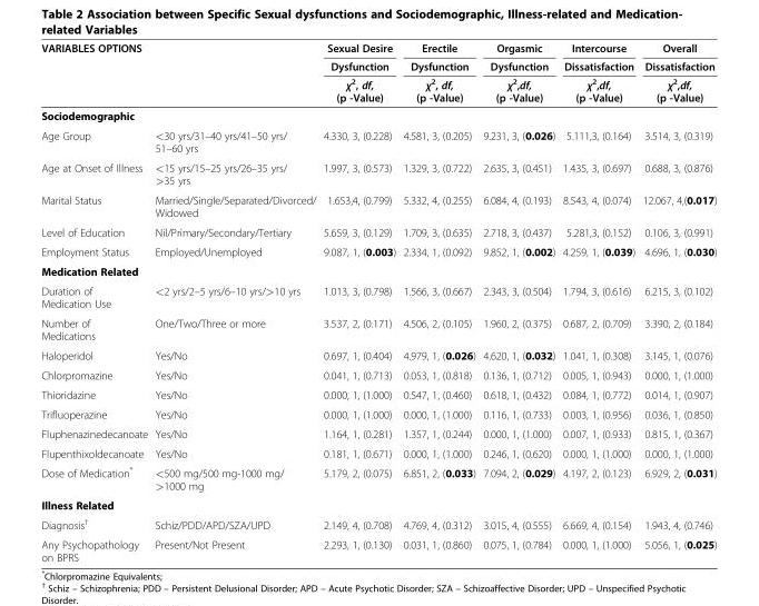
<table><thead><tr><td rowspan="3">VARIABLES OPTIONS</td><td rowspan="3"></td><td rowspan="3">Sexual Desire Dysfunction χ<sup>2</sup>, df, (p -Value)</td><td rowspan="3">Erectile Dysfunction χ<sup>2</sup>, df, (p -Value)</td><td rowspan="3">Orgasmic Dysfunction χ<sup>2</sup>,df, (p -Value)</td><td rowspan="3">Intercourse Dissatisfaction χ<sup>2</sup>,df, (p -Value)</td><td rowspan="3">Overall Dissatisfaction χ<sup>2</sup>,df, (p -Value)</td></tr><tr></tr><tr></tr></thead><tbody><tr><td colspan="7">Sociodemographic</td></tr><tr><td>Age Group</td><td>&lt;30 yrs/31–40 yrs/41–50 yrs/ 51–60 yrs</td><td>4.330, 3, (0.228)</td><td>4.581, 3, (0.205)</td><td>9.231, 3, (0.026)</td><td>5.111,3, (0.164)</td><td>3.514, 3, (0.319)</td></tr><tr><td>Age at Onset of Illness</td><td>&lt;15 yrs/15–25 yrs/26–35 yrs/ &gt;35 yrs</td><td>1.997, 3, (0.573)</td><td>1.329, 3, (0.722)</td><td>2.635, 3, (0.451)</td><td>1.435, 3, (0.697)</td><td>0.688, 3, (0.876)</td></tr><tr><td>Marital Status</td><td>Married/Single/Separated/Divorced/ Widowed</td><td>1.653,4, (0.799)</td><td>5.332, 4, (0.255)</td><td>6.084, 4, (0.193)</td><td>8.543, 4, (0.074)</td><td>12.067, 4,(0.017)</td></tr><tr><td>Level of Education</td><td>Nil/Primary/Secondary/Tertiary</td><td>5.659, 3, (0.129)</td><td>1.709, 3, (0.635)</td><td>2.718, 3, (0.437)</td><td>5.281,3, (0.152)</td><td>0.106, 3, (0.991)</td></tr><tr><td>Employment Status</td><td>Employed/Unemployed</td><td>9.087, 1, (0.003)</td><td>2.334, 1, (0.092)</td><td>9.852, 1, (0.002)</td><td>4.259, 1, (0.039)</td><td>4.696, 1, (0.030)</td></tr><tr><td colspan="7">Medication Related</td></tr><tr><td>Duration of Medication Use</td><td>&lt;2 yrs/2–5 yrs/6–10 yrs/&gt;10 yrs</td><td>1.013, 3, (0.798)</td><td>1.566, 3, (0.667)</td><td>2.343, 3, (0.504)</td><td>1.794, 3, (0.616)</td><td>6.215, 3, (0.102)</td></tr><tr><td>Number of Medications</td><td>One/Two/Three or more</td><td>3.537, 2, (0.171)</td><td>4.506, 2, (0.105)</td><td>1.960, 2, (0.375)</td><td>0.687, 2, (0.709)</td><td>3.390, 2, (0.184)</td></tr><tr><td>Haloperidol</td><td>Yes/No</td><td>0.697, 1, (0.404)</td><td>4.979, 1, (0.026)</td><td>4.620, 1, (0.032)</td><td>1.041, 1, (0.308)</td><td>3.145, 1, (0.076)</td></tr><tr><td>Chlorpromazine</td><td>Yes/No</td><td>0.041, 1, (0.713)</td><td>0.053, 1, (0.818)</td><td>0.136, 1, (0.712)</td><td>0.005, 1, (0.943)</td><td>0.000, 1, (1.000)</td></tr><tr><td>Thioridazine</td><td>Yes/No</td><td>0.000, 1, (1.000)</td><td>0.547, 1, (0.460)</td><td>0.618, 1, (0.432)</td><td>0.084, 1, (0.772)</td><td>0.014, 1, (0.907)</td></tr><tr><td>Trifluoperazine</td><td>Yes/No</td><td>0.000, 1, (1.000)</td><td>0.000, 1, (1.000)</td><td>0.116, 1, (0.733)</td><td>0.003, 1, (0.956)</td><td>0.036, 1, (0.850)</td></tr><tr><td>Fluphenazinedecanoate</td><td>Yes/No</td><td>1.164, 1, (0.281)</td><td>1.357, 1, (0.244)</td><td>0.000, 1, (1.000)</td><td>0.007, 1, (0.933)</td><td>0.815, 1, (0.367)</td></tr><tr><td>Flupenthixoldecanoate</td><td>Yes/No</td><td>0.181, 1, (0.671)</td><td>0.000, 1, (1.000)</td><td>0.246, 1, (0.620)</td><td>0.000, 1, (1.000)</td><td>0.000, 1, (1.000)</td></tr><tr><td>Dose of Medication*</td><td>&lt;500 mg/500 mg-1000 mg/ &gt;1000 mg</td><td>5.179, 2, (0.075)</td><td>6.851, 2, (0.033)</td><td>7.094, 2, (0.029)</td><td>4.197, 2, (0.123)</td><td>6.929, 2, (0.031)</td></tr><tr><td colspan="7">Illness Related</td></tr><tr><td>Diagnosis<sup>†</sup></td><td>Schiz/PDD/APD/SZA/UPD</td><td>2.149, 4, (0.708)</td><td>4.769, 4, (0.312)</td><td>3.015, 4, (0.555)</td><td>6.669, 4, (0.154)</td><td>1.943, 4, (0.746)</td></tr><tr><td>Any Psychopathology on BPRS</td><td>Present/Not Present</td><td>2.293, 1, (0.130)</td><td>0.031, 1, (0.860)</td><td>0.075, 1, (0.784)</td><td>0.000, 1, (1.000)</td><td>5.056, 1, (0.025)</td></tr></tbody></table>